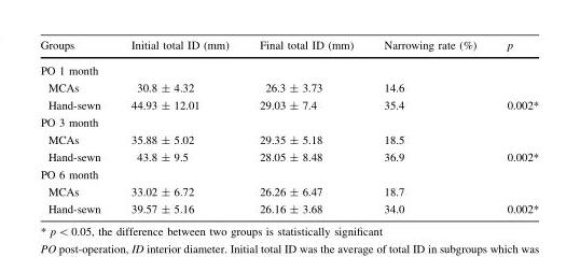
<table><thead><tr><td>Groups</td><td>Initial total ID (mm)</td><td>Final total ID (mm)</td><td>Narrowing rate (%)</td><td>p</td></tr></thead><tbody><tr><td colspan="5">PO 1 month</td></tr><tr><td>MCAs</td><td>30.8 ± 4.32</td><td>26.3 ± 3.73</td><td>14.6</td><td></td></tr><tr><td>Hand-sewn</td><td>44.93 ± 12.01</td><td>29.03 ± 7.4</td><td>35.4</td><td>0.002*</td></tr><tr><td colspan="5">PO 3 month</td></tr><tr><td>MCAs</td><td>35.88 ± 5.02</td><td>29.35 ± 5.18</td><td>18.5</td><td></td></tr><tr><td>Hand-sewn</td><td>43.8 ± 9.5</td><td>28.05 ± 8.48</td><td>36.9</td><td>0.002*</td></tr><tr><td colspan="5">PO 6 month</td></tr><tr><td>MCAs</td><td>33.02 ± 6.72</td><td>26.26 ± 6.47</td><td>18.7</td><td></td></tr><tr><td>Hand-sewn</td><td>39.57 ± 5.16</td><td>26.16 ± 3.68</td><td>34.0</td><td>0.002*</td></tr></tbody></table>